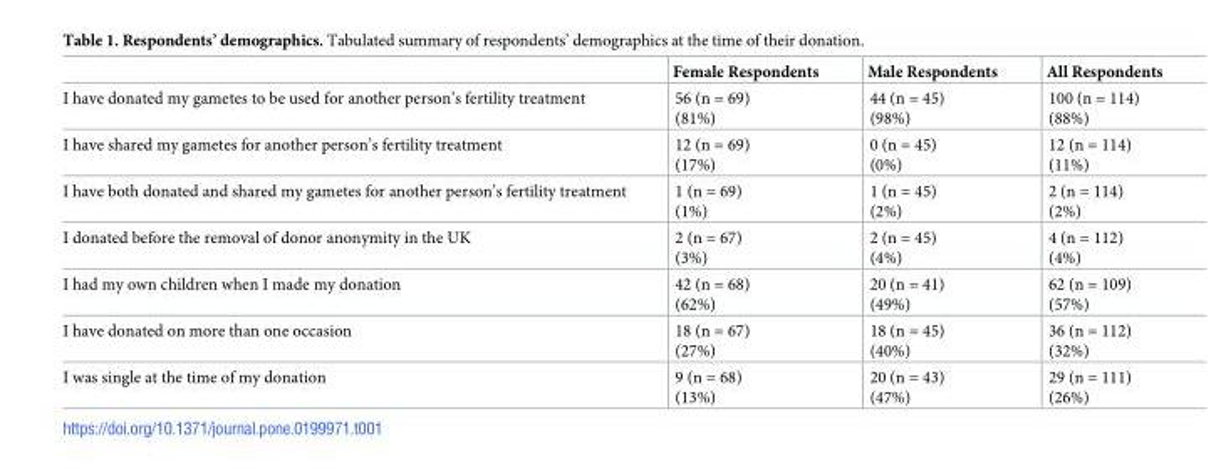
<table><thead><tr><td></td><td>Female Respondents</td><td>Male Respondents</td><td>All Respondents</td></tr></thead><tbody><tr><td>I have donated my gametes to be used for another person’s fertility treatment</td><td>56 (n = 69) (81%)</td><td>44 (n = 45) (98%)</td><td>100 (n = 114) (88%)</td></tr><tr><td>I have shared my gametes for another person’s fertility treatment</td><td>12 (n = 69) (17%)</td><td>0 (n = 45) (0%)</td><td>12 (n = 114) (11%)</td></tr><tr><td>I have both donated and shared my gametes for another person’s fertility treatment</td><td>1 (n = 69) (1%)</td><td>1 (n = 45) (2%)</td><td>2 (n = 114) (2%)</td></tr><tr><td>I donated before the removal of donor anonymity in the UK</td><td>2 (n = 67) (3%)</td><td>2 (n = 45) (4%)</td><td>4 (n = 112) (4%)</td></tr><tr><td>I had my own children when I made my donation</td><td>42 (n = 68) (62%)</td><td>20 (n = 41) (49%)</td><td>62 (n = 109) (57%)</td></tr><tr><td>I have donated on more than one occasion</td><td>18 (n = 67) (27%)</td><td>18 (n = 45) (40%)</td><td>36 (n = 112) (32%)</td></tr><tr><td>I was single at the time of my donation</td><td>9 (n = 68) (13%)</td><td>20 (n = 43) (47%)</td><td>29 (n = 111) (26%)</td></tr></tbody></table>